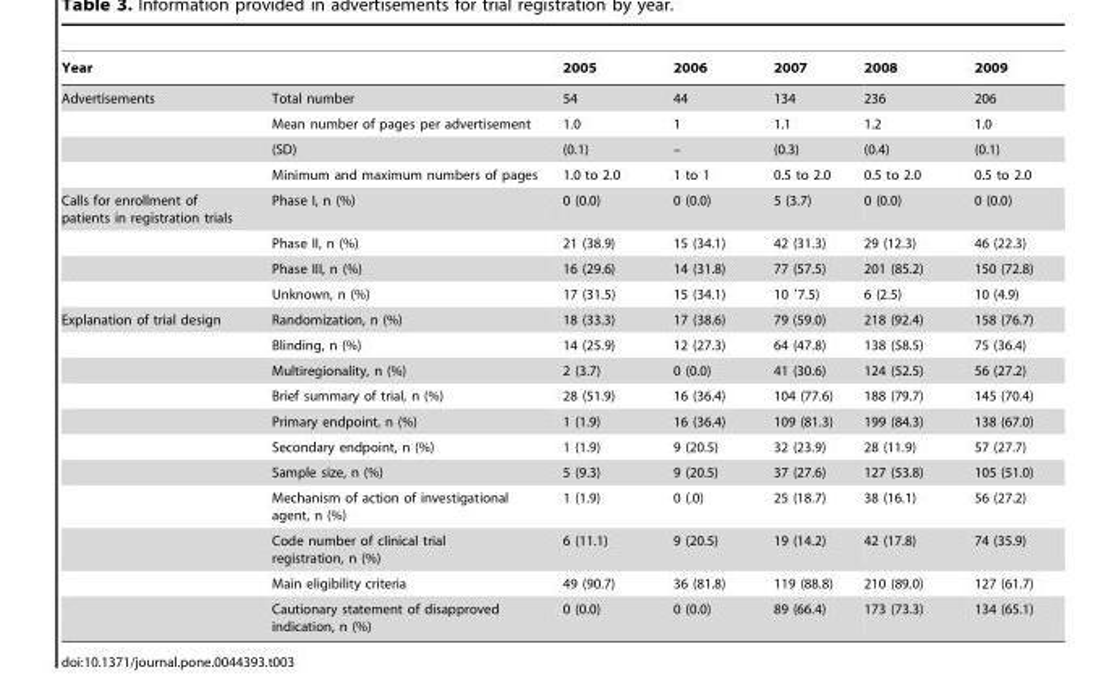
<table><thead><tr><td>Year</td><td></td><td>2005</td><td>2006</td><td>2007</td><td>2008</td><td>2009</td></tr></thead><tbody><tr><td rowspan="4">Advertisements</td><td>Total number</td><td>54</td><td>44</td><td>134</td><td>236</td><td>206</td></tr><tr><td>Mean number of pages per advertisement</td><td>1.0</td><td>1</td><td>1.1</td><td>1.2</td><td>1.0</td></tr><tr><td>(SD)</td><td>(0.1)</td><td>–</td><td>(0.3)</td><td>(0.4)</td><td>(0.1)</td></tr><tr><td>Minimum and maximum numbers of pages</td><td>1.0 to 2.0</td><td>1 to 1</td><td>0.5 to 2.0</td><td>0.5 to 2.0</td><td>0.5 to 2.0</td></tr><tr><td rowspan="4">Calls for enrollment of patients in registration trials</td><td>Phase I, n (%)</td><td>0 (0.0)</td><td>0 (0.0)</td><td>5 (3.7)</td><td>0 (0.0)</td><td>0 (0.0)</td></tr><tr><td>Phase II, n (%)</td><td>21 (38.9)</td><td>15 (34.1)</td><td>42 (31.3)</td><td>29 (12.3)</td><td>46 (22.3)</td></tr><tr><td>Phase III, n (%)</td><td>16 (29.6)</td><td>14 (31.8)</td><td>77 (57.5)</td><td>201 (85.2)</td><td>150 (72.8)</td></tr><tr><td>Unknown, n (%)</td><td>17 (31.5)</td><td>15 (34.1)</td><td>10 ′7.5)</td><td>6 (2.5)</td><td>10 (4.9)</td></tr><tr><td rowspan="11">Explanation of trial design</td><td>Randomization, n (%)</td><td>18 (33.3)</td><td>17 (38.6)</td><td>79 (59.0)</td><td>218 (92.4)</td><td>158 (76.7)</td></tr><tr><td>Blinding, n (%)</td><td>14 (25.9)</td><td>12 (27.3)</td><td>64 (47.8)</td><td>138 (58.5)</td><td>75 (36.4)</td></tr><tr><td>Multiregionality, n (%)</td><td>2 (3.7)</td><td>0 (0.0)</td><td>41 (30.6)</td><td>124 (52.5)</td><td>56 (27.2)</td></tr><tr><td>Brief summary of trial, n (%)</td><td>28 (51.9)</td><td>16 (36.4)</td><td>104 (77.6)</td><td>188 (79.7)</td><td>145 (70.4)</td></tr><tr><td>Primary endpoint, n (%)</td><td>1 (1.9)</td><td>16 (36.4)</td><td>109 (81.3)</td><td>199 (84.3)</td><td>138 (67.0)</td></tr><tr><td>Secondary endpoint, n (%)</td><td>1 (1.9)</td><td>9 (20.5)</td><td>32 (23.9)</td><td>28 (11.9)</td><td>57 (27.7)</td></tr><tr><td>Sample size, n (%)</td><td>5 (9.3)</td><td>9 (20.5)</td><td>37 (27.6)</td><td>127 (53.8)</td><td>105 (51.0)</td></tr><tr><td>Mechanism of action of investigational agent, n (%)</td><td>1 (1.9)</td><td>0 (.0)</td><td>25 (18.7)</td><td>38 (16.1)</td><td>56 (27.2)</td></tr><tr><td>Code number of clinical trial registration, n (%)</td><td>6 (11.1)</td><td>9 (20.5)</td><td>19 (14.2)</td><td>42 (17.8)</td><td>74 (35.9)</td></tr><tr><td>Main eligibility criteria</td><td>49 (90.7)</td><td>36 (81.8)</td><td>119 (88.8)</td><td>210 (89.0)</td><td>127 (61.7)</td></tr><tr><td>Cautionary statement of disapproved indication, n (%)</td><td>0 (0.0)</td><td>0 (0.0)</td><td>89 (66.4)</td><td>173 (73.3)</td><td>134 (65.1)</td></tr></tbody></table>